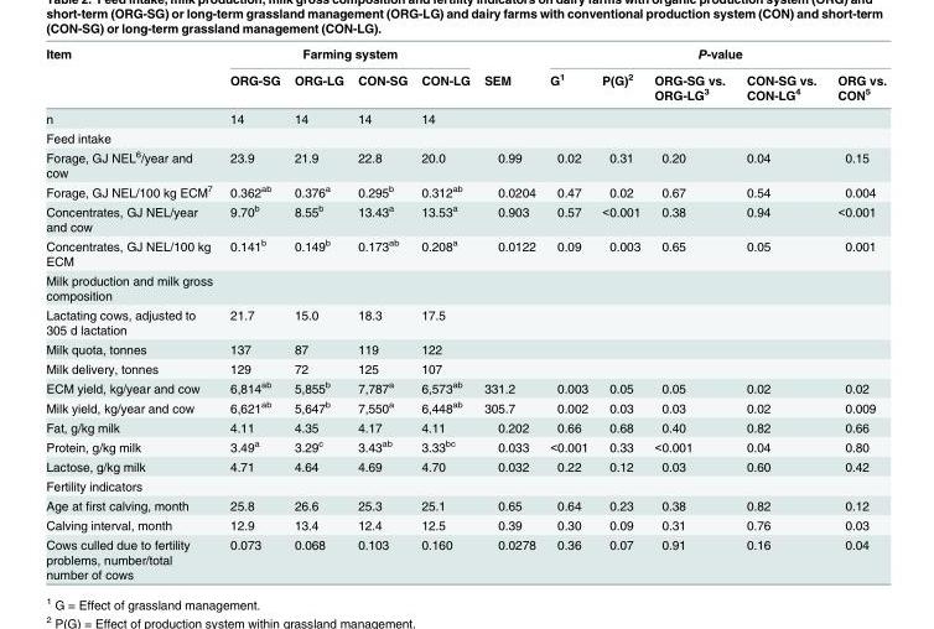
<table><thead><tr><td rowspan="2">Item</td><td colspan="4">Farming system</td><td rowspan="2">SEM</td><td colspan="5">P-value</td></tr><tr><td>ORG-SG</td><td>ORG-LG</td><td>CON-SG</td><td>CON-LG</td><td>G<sup>1</sup></td><td>P(G)<sup>2</sup></td><td>ORG-SG vs. ORG-LG<sup>3</sup></td><td>CON-SG vs. CON-LG<sup>4</sup></td><td>ORG vs. CON<sup>5</sup></td></tr></thead><tbody><tr><td>n</td><td>14</td><td>14</td><td>14</td><td>14</td><td></td><td></td><td></td><td></td><td></td><td></td></tr><tr><td colspan="11">Feed intake</td></tr><tr><td>Forage, GJ NEL<sup>6</sup>/year and cow</td><td>23.9</td><td>21.9</td><td>22.8</td><td>20.0</td><td>0.99</td><td>0.02</td><td>0.31</td><td>0.20</td><td>0.04</td><td>0.15</td></tr><tr><td>Forage, GJ NEL/100 kg ECM<sup>7</sup></td><td>0.362<sup>ab</sup></td><td>0.376<sup>a</sup></td><td>0.295<sup>b</sup></td><td>0.312<sup>ab</sup></td><td>0.0204</td><td>0.47</td><td>0.02</td><td>0.67</td><td>0.54</td><td>0.004</td></tr><tr><td>Concentrates, GJ NEL/year and cow</td><td>9.70<sup>b</sup></td><td>8.55<sup>b</sup></td><td>13.43<sup>a</sup></td><td>13.53<sup>a</sup></td><td>0.903</td><td>0.57</td><td>&lt;0.001</td><td>0.38</td><td>0.94</td><td>&lt;0.001</td></tr><tr><td>Concentrates, GJ NEL/100 kg ECM</td><td>0.141<sup>b</sup></td><td>0.149<sup>b</sup></td><td>0.173<sup>ab</sup></td><td>0.208<sup>a</sup></td><td>0.0122</td><td>0.09</td><td>0.003</td><td>0.65</td><td>0.05</td><td>0.001</td></tr><tr><td colspan="11">Milk production and milk gross composition</td></tr><tr><td>Lactating cows, adjusted to 305 d lactation</td><td>21.7</td><td>15.0</td><td>18.3</td><td>17.5</td><td></td><td></td><td></td><td></td><td></td><td></td></tr><tr><td>Milk quota, tonnes</td><td>137</td><td>87</td><td>119</td><td>122</td><td></td><td></td><td></td><td></td><td></td><td></td></tr><tr><td>Milk delivery, tonnes</td><td>129</td><td>72</td><td>125</td><td>107</td><td></td><td></td><td></td><td></td><td></td><td></td></tr><tr><td>ECM yield, kg/year and cow</td><td>6,814<sup>ab</sup></td><td>5,855<sup>b</sup></td><td>7,787<sup>a</sup></td><td>6,573<sup>ab</sup></td><td>331.2</td><td>0.003</td><td>0.05</td><td>0.05</td><td>0.02</td><td>0.02</td></tr><tr><td>Milk yield, kg/year and cow</td><td>6,621<sup>ab</sup></td><td>5,647<sup>b</sup></td><td>7,550<sup>a</sup></td><td>6,448<sup>ab</sup></td><td>305.7</td><td>0.002</td><td>0.03</td><td>0.03</td><td>0.02</td><td>0.009</td></tr><tr><td>Fat, g/kg milk</td><td>4.11</td><td>4.35</td><td>4.17</td><td>4.11</td><td>0.202</td><td>0.66</td><td>0.68</td><td>0.40</td><td>0.82</td><td>0.66</td></tr><tr><td>Protein, g/kg milk</td><td>3.49<sup>a</sup></td><td>3.29<sup>c</sup></td><td>3.43<sup>ab</sup></td><td>3.33<sup>bc</sup></td><td>0.033</td><td>&lt;0.001</td><td>0.33</td><td>&lt;0.001</td><td>0.04</td><td>0.80</td></tr><tr><td>Lactose, g/kg milk</td><td>4.71</td><td>4.64</td><td>4.69</td><td>4.70</td><td>0.032</td><td>0.22</td><td>0.12</td><td>0.03</td><td>0.60</td><td>0.42</td></tr><tr><td colspan="11">Fertility indicators</td></tr><tr><td>Age at first calving, month</td><td>25.8</td><td>26.6</td><td>25.3</td><td>25.1</td><td>0.65</td><td>0.64</td><td>0.23</td><td>0.38</td><td>0.82</td><td>0.12</td></tr><tr><td>Calving interval, month</td><td>12.9</td><td>13.4</td><td>12.4</td><td>12.5</td><td>0.39</td><td>0.30</td><td>0.09</td><td>0.31</td><td>0.76</td><td>0.03</td></tr><tr><td>Cows culled due to fertility problems, number/total number of cows</td><td>0.073</td><td>0.068</td><td>0.103</td><td>0.160</td><td>0.0278</td><td>0.36</td><td>0.07</td><td>0.91</td><td>0.16</td><td>0.04</td></tr></tbody></table>